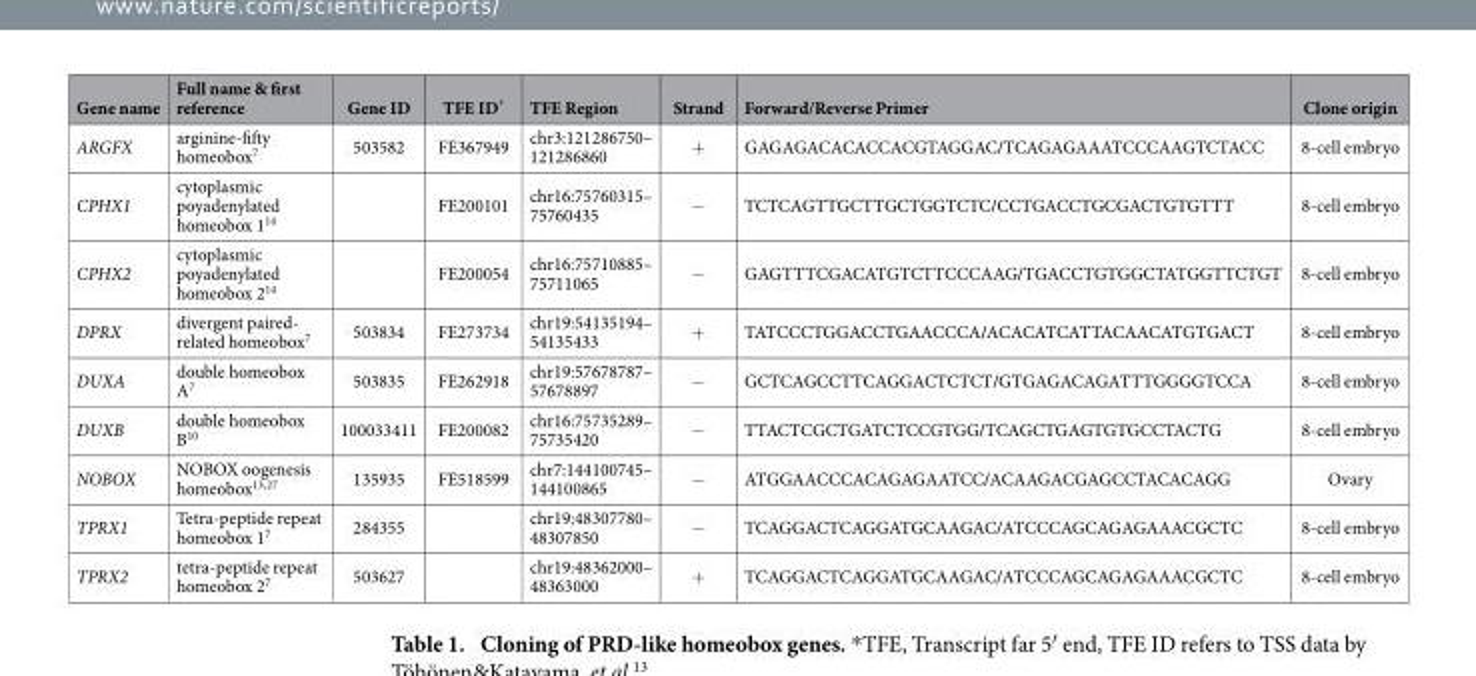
<table><thead><tr><td>Gene name</td><td>Full name &amp; first reference</td><td>Gene ID</td><td>TFE ID*</td><td>TFE Region</td><td>Strand</td><td>Forward/Reverse Primer</td><td>Clone origin</td></tr></thead><tbody><tr><td>ARGFX</td><td>arginine-fifty homeobox<sup>7</sup></td><td>503582</td><td>FE367949</td><td>chr3:121286750– 121286860</td><td>+</td><td>GAGAGACACACCACGTAGGAC/TCAGAGAAATCCCAAGTCTACC</td><td>8-cell embryo</td></tr><tr><td>CPHX1</td><td>cytoplasmic poyadenylated homeobox 1<sup>14</sup></td><td></td><td>FE200101</td><td>chr16:75760315– 75760435</td><td>−</td><td>TCTCAGTTGCTTGCTGGTCTC/CCTGACCTGCGACTGTGTTT</td><td>8-cell embryo</td></tr><tr><td>CPHX2</td><td>cytoplasmic poyadenylated homeobox 2<sup>14</sup></td><td></td><td>FE200054</td><td>chr16:75710885– 75711065</td><td>−</td><td>GAGTTTCGACATGTCTTCCCAAG/TGACCTGTGGCTATGGTTCTGT</td><td>8-cell embryo</td></tr><tr><td>DPRX</td><td>divergent paired- related homeobox<sup>7</sup></td><td>503834</td><td>FE273734</td><td>chr19:54135194– 54135433</td><td>+</td><td>TATCCCTGGACCTGAACCCA/ACACATCATTACAACATGTGACT</td><td>8-cell embryo</td></tr><tr><td>DUXA</td><td>double homeobox A<sup>7</sup></td><td>503835</td><td>FE262918</td><td>chr19:57678787– 57678897</td><td>−</td><td>GCTCAGCCTTCAGGACTCTCT/GTGAGACAGATTTGGGGTCCA</td><td>8-cell embryo</td></tr><tr><td>DUXB</td><td>double homeobox B<sup>10</sup></td><td>100033411</td><td>FE200082</td><td>chr16:75735289– 75735420</td><td>−</td><td>TTACTCGCTGATCTCCGTGG/TCAGCTGAGTGTGCCTACTG</td><td>8-cell embryo</td></tr><tr><td>NOBOX</td><td>NOBOX oogenesis homeobox<sup>13</sup>,<sup>27</sup></td><td>135935</td><td>FE518599</td><td>chr7:144100745– 144100865</td><td>−</td><td>ATGGAACCCACAGAGAATCC/ACAAGACGAGCCTACACAGG</td><td>Ovary</td></tr><tr><td>TPRX1</td><td>Tetra-peptide repeat homeobox 1<sup>7</sup></td><td>284355</td><td></td><td>chr19:48307780– 48307850</td><td>−</td><td>TCAGGACTCAGGATGCAAGAC/ATCCCAGCAGAGAAACGCTC</td><td>8-cell embryo</td></tr><tr><td>TPRX2</td><td>tetra-peptide repeat homeobox 2<sup>7</sup></td><td>503627</td><td></td><td>chr19:48362000– 48363000</td><td>+</td><td>TCAGGACTCAGGATGCAAGAC/ATCCCAGCAGAGAAACGCTC</td><td>8-cell embryo</td></tr></tbody></table>